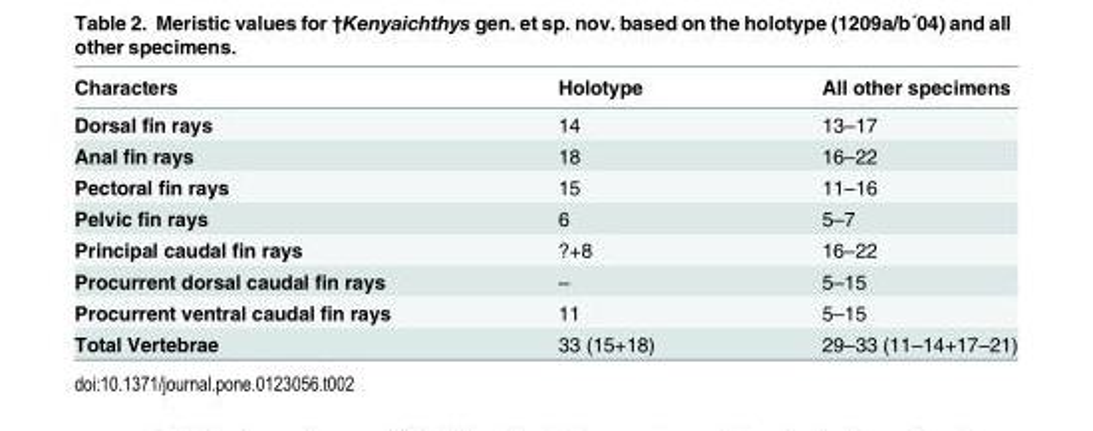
<table><thead><tr><td>Characters</td><td>Holotype</td><td>All other specimens</td></tr></thead><tbody><tr><td>Dorsal fin rays</td><td>14</td><td>13–17</td></tr><tr><td>Anal fin rays</td><td>18</td><td>16–22</td></tr><tr><td>Pectoral fin rays</td><td>15</td><td>11–16</td></tr><tr><td>Pelvic fin rays</td><td>6</td><td>5–7</td></tr><tr><td>Principal caudal fin rays</td><td>?+8</td><td>16–22</td></tr><tr><td>Procurrent dorsal caudal fin rays</td><td>–</td><td>5–15</td></tr><tr><td>Procurrent ventral caudal fin rays</td><td>11</td><td>5–15</td></tr><tr><td>Total Vertebrae</td><td>33 (15+18)</td><td>29–33 (11–14+17–21)</td></tr></tbody></table>